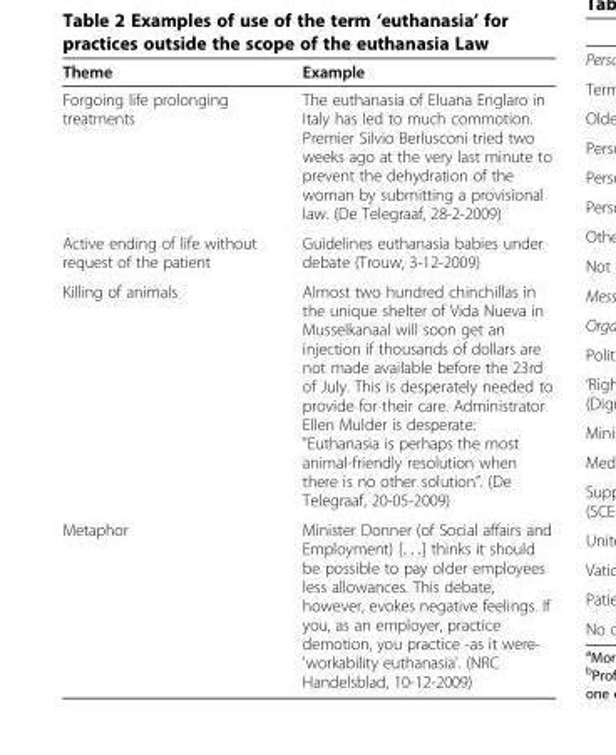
<table><thead><tr><td>Theme</td><td>Example</td></tr></thead><tbody><tr><td>Forgoing life prolonging treatments</td><td>The euthanasia of Eluana Englaro in Italy has led to much commotion. Premier Silvio Berlusconi tried two weeks ago at the very last minute to prevent the dehydration of the woman by submitting a provisional law. (De Telegraaf, 28-2-2009)</td></tr><tr><td>Active ending of life without request of the patient</td><td>Guidelines euthanasia babies under debate (Trouw, 3-12-2009)</td></tr><tr><td>Killing of animals</td><td>Almost two hundred chinchillas in the unique shelter of Vida Nueva in Musselkanaal will soon get an injection if thousands of dollars are not made available before the 23rd of July. This is desperately needed to provide for their care. Administrator Ellen Mulder is desperate: &quot;Euthanasia is perhaps the most animal-friendly resolution when there is no other solution”. (De Telegraaf, 20-05-2009)</td></tr><tr><td>Metaphor</td><td>Minister Donner (of Social affairs and Employment) [. . .] thinks it should be possible to pay older employees less allowances. This debate, however, evokes negative feelings. If you, as an employer, practice demotion, you practice -as it were- &#x27;workability euthanasia&#x27;. (NRC Handelsblad, 10-12-2009)</td></tr></tbody></table>